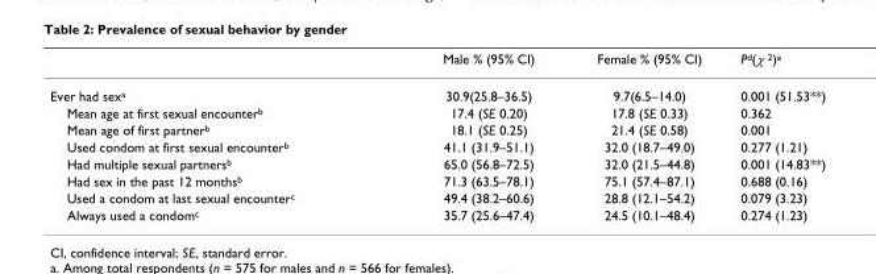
<table><thead><tr><td></td><td>Male % (95% CI)</td><td>Female % (95% CI)</td><td>P<sup>d</sup>(χ <sup>2</sup>)<sup>e</sup></td></tr></thead><tbody><tr><td>Ever had sex<sup>a</sup></td><td>30.9(25.8–36.5)</td><td>9.7(6.5–14.0)</td><td>0.001 (51.53**)</td></tr><tr><td>Mean age at first sexual encounter<sup>b</sup></td><td>17.4 (SE 0.20)</td><td>17.8 (SE 0.33)</td><td>0.362</td></tr><tr><td>Mean age of first partner<sup>b</sup></td><td>18.1 (SE 0.25)</td><td>21.4 (SE 0.58)</td><td>0.001</td></tr><tr><td>Used condom at first sexual encounter<sup>b</sup></td><td>41.1 (31.9–51.1)</td><td>32.0 (18.7–49.0)</td><td>0.277 (1.21)</td></tr><tr><td>Had multiple sexual partners<sup>b</sup></td><td>65.0 (56.8–72.5)</td><td>32.0 (21.5–44.8)</td><td>0.001 (14.83**)</td></tr><tr><td>Had sex in the past 12 months<sup>b</sup></td><td>71.3 (63.5–78.1)</td><td>75.1 (57.4–87.1)</td><td>0.688 (0.16)</td></tr><tr><td>Used a condom at last sexual encounter<sup>c</sup></td><td>49.4 (38.2–60.6)</td><td>28.8 (12.1–54.2)</td><td>0.079 (3.23)</td></tr><tr><td>Always used a condom<sup>c</sup></td><td>35.7 (25.6–47.4)</td><td>24.5 (10.1–48.4)</td><td>0.274 (1.23)</td></tr></tbody></table>